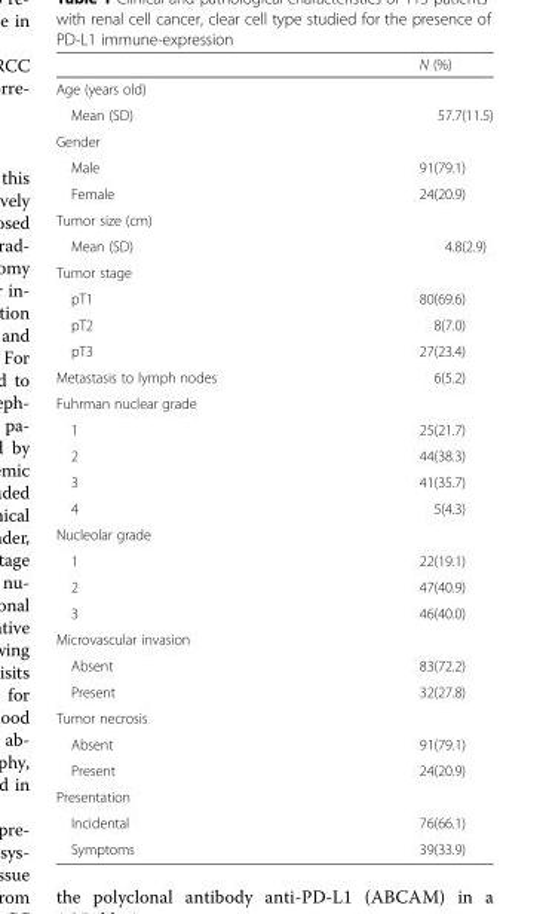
<table><thead><tr><td></td><td>N (%)</td></tr></thead><tbody><tr><td colspan="2">Age (years old)</td></tr><tr><td>Mean (SD)</td><td>57.7(11.5)</td></tr><tr><td colspan="2">Gender</td></tr><tr><td>Male</td><td>91(79.1)</td></tr><tr><td>Female</td><td>24(20.9)</td></tr><tr><td colspan="2">Tumor size (cm)</td></tr><tr><td>Mean (SD)</td><td>4.8(2.9)</td></tr><tr><td colspan="2">Tumor stage</td></tr><tr><td>pT1</td><td>80(69.6)</td></tr><tr><td>pT2</td><td>8(7.0)</td></tr><tr><td>pT3</td><td>27(23.4)</td></tr><tr><td>Metastasis to lymph nodes</td><td>6(5.2)</td></tr><tr><td colspan="2">Fuhrman nuclear grade</td></tr><tr><td>1</td><td>25(21.7)</td></tr><tr><td>2</td><td>44(38.3)</td></tr><tr><td>3</td><td>41(35.7)</td></tr><tr><td>4</td><td>5(4.3)</td></tr><tr><td colspan="2">Nucleolar grade</td></tr><tr><td>1</td><td>22(19.1)</td></tr><tr><td>2</td><td>47(40.9)</td></tr><tr><td>3</td><td>46(40.0)</td></tr><tr><td colspan="2">Microvascular invasion</td></tr><tr><td>Absent</td><td>83(72.2)</td></tr><tr><td>Present</td><td>32(27.8)</td></tr><tr><td colspan="2">Tumor necrosis</td></tr><tr><td>Absent</td><td>91(79.1)</td></tr><tr><td>Present</td><td>24(20.9)</td></tr><tr><td colspan="2">Presentation</td></tr><tr><td>Incidental</td><td>76(66.1)</td></tr><tr><td>Symptoms</td><td>39(33.9)</td></tr></tbody></table>